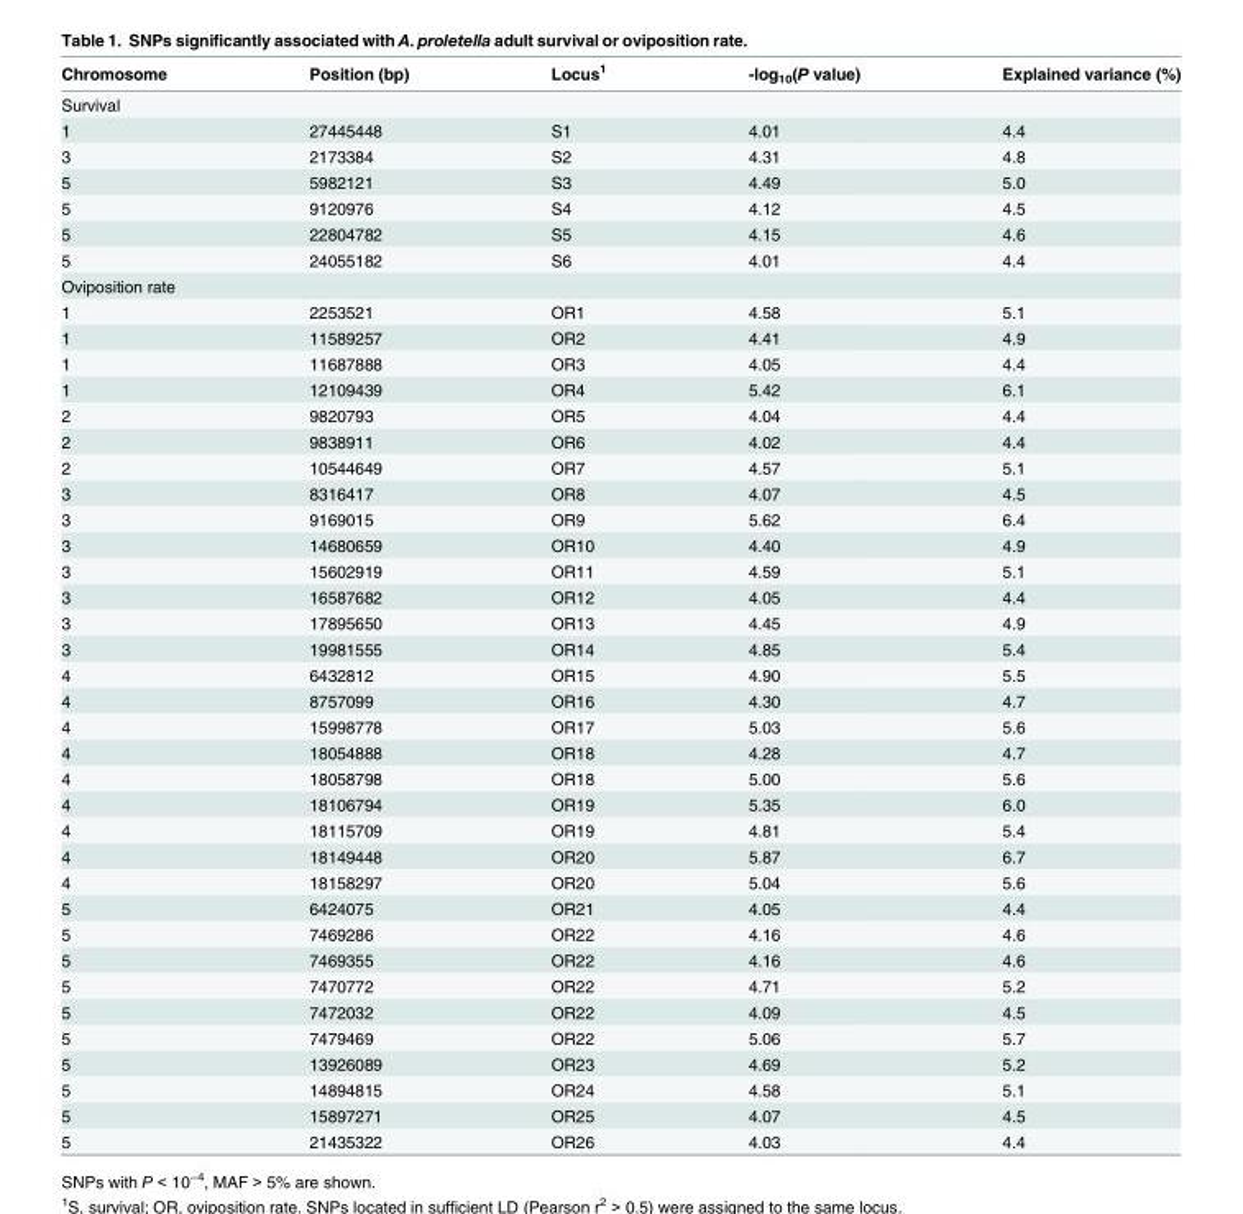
<table><thead><tr><td>Chromosome</td><td>Position (bp)</td><td>Locus<sup>1</sup></td><td>-log<sub>10</sub>(P value)</td><td>Explained variance (%)</td></tr></thead><tbody><tr><td colspan="5">Survival</td></tr><tr><td>1</td><td>27445448</td><td>S1</td><td>4.01</td><td>4.4</td></tr><tr><td>3</td><td>2173384</td><td>S2</td><td>4.31</td><td>4.8</td></tr><tr><td>5</td><td>5982121</td><td>S3</td><td>4.49</td><td>5.0</td></tr><tr><td>5</td><td>9120976</td><td>S4</td><td>4.12</td><td>4.5</td></tr><tr><td>5</td><td>22804782</td><td>S5</td><td>4.15</td><td>4.6</td></tr><tr><td>5</td><td>24055182</td><td>S6</td><td>4.01</td><td>4.4</td></tr><tr><td colspan="5">Oviposition rate</td></tr><tr><td>1</td><td>2253521</td><td>OR1</td><td>4.58</td><td>5.1</td></tr><tr><td>1</td><td>11589257</td><td>OR2</td><td>4.41</td><td>4.9</td></tr><tr><td>1</td><td>11687888</td><td>OR3</td><td>4.05</td><td>4.4</td></tr><tr><td>1</td><td>12109439</td><td>OR4</td><td>5.42</td><td>6.1</td></tr><tr><td>2</td><td>9820793</td><td>OR5</td><td>4.04</td><td>4.4</td></tr><tr><td>2</td><td>9838911</td><td>OR6</td><td>4.02</td><td>4.4</td></tr><tr><td>2</td><td>10544649</td><td>OR7</td><td>4.57</td><td>5.1</td></tr><tr><td>3</td><td>8316417</td><td>OR8</td><td>4.07</td><td>4.5</td></tr><tr><td>3</td><td>9169015</td><td>OR9</td><td>5.62</td><td>6.4</td></tr><tr><td>3</td><td>14680659</td><td>OR10</td><td>4.40</td><td>4.9</td></tr><tr><td>3</td><td>15602919</td><td>OR11</td><td>4.59</td><td>5.1</td></tr><tr><td>3</td><td>16587682</td><td>OR12</td><td>4.05</td><td>4.4</td></tr><tr><td>3</td><td>17895650</td><td>OR13</td><td>4.45</td><td>4.9</td></tr><tr><td>3</td><td>19981555</td><td>OR14</td><td>4.85</td><td>5.4</td></tr><tr><td>4</td><td>6432812</td><td>OR15</td><td>4.90</td><td>5.5</td></tr><tr><td>4</td><td>8757099</td><td>OR16</td><td>4.30</td><td>4.7</td></tr><tr><td>4</td><td>15998778</td><td>OR17</td><td>5.03</td><td>5.6</td></tr><tr><td>4</td><td>18054888</td><td>OR18</td><td>4.28</td><td>4.7</td></tr><tr><td>4</td><td>18058798</td><td>OR18</td><td>5.00</td><td>5.6</td></tr><tr><td>4</td><td>18106794</td><td>OR19</td><td>5.35</td><td>6.0</td></tr><tr><td>4</td><td>18115709</td><td>OR19</td><td>4.81</td><td>5.4</td></tr><tr><td>4</td><td>18149448</td><td>OR20</td><td>5.87</td><td>6.7</td></tr><tr><td>4</td><td>18158297</td><td>OR20</td><td>5.04</td><td>5.6</td></tr><tr><td>5</td><td>6424075</td><td>OR21</td><td>4.05</td><td>4.4</td></tr><tr><td>5</td><td>7469286</td><td>OR22</td><td>4.16</td><td>4.6</td></tr><tr><td>5</td><td>7469355</td><td>OR22</td><td>4.16</td><td>4.6</td></tr><tr><td>5</td><td>7470772</td><td>OR22</td><td>4.71</td><td>5.2</td></tr><tr><td>5</td><td>7472032</td><td>OR22</td><td>4.09</td><td>4.5</td></tr><tr><td>5</td><td>7479469</td><td>OR22</td><td>5.06</td><td>5.7</td></tr><tr><td>5</td><td>13926089</td><td>OR23</td><td>4.69</td><td>5.2</td></tr><tr><td>5</td><td>14894815</td><td>OR24</td><td>4.58</td><td>5.1</td></tr><tr><td>5</td><td>15897271</td><td>OR25</td><td>4.07</td><td>4.5</td></tr><tr><td>5</td><td>21435322</td><td>OR26</td><td>4.03</td><td>4.4</td></tr></tbody></table>